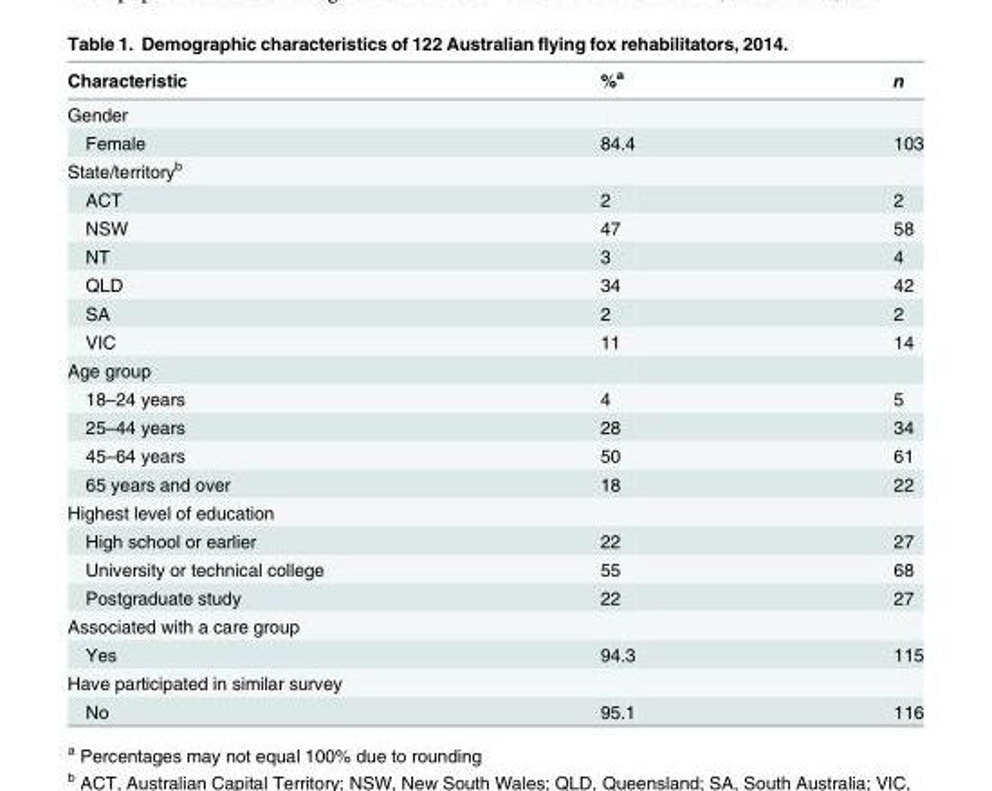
<table><thead><tr><td>Characteristic</td><td>%<sup>a</sup></td><td>n</td></tr></thead><tbody><tr><td colspan="3">Gender</td></tr><tr><td>Female</td><td>84.4</td><td>103</td></tr><tr><td colspan="3">State/territory<sup>b</sup></td></tr><tr><td>ACT</td><td>2</td><td>2</td></tr><tr><td>NSW</td><td>47</td><td>58</td></tr><tr><td>NT</td><td>3</td><td>4</td></tr><tr><td>QLD</td><td>34</td><td>42</td></tr><tr><td>SA</td><td>2</td><td>2</td></tr><tr><td>VIC</td><td>11</td><td>14</td></tr><tr><td colspan="3">Age group</td></tr><tr><td>18–24 years</td><td>4</td><td>5</td></tr><tr><td>25–44 years</td><td>28</td><td>34</td></tr><tr><td>45–64 years</td><td>50</td><td>61</td></tr><tr><td>65 years and over</td><td>18</td><td>22</td></tr><tr><td colspan="3">Highest level of education</td></tr><tr><td>High school or earlier</td><td>22</td><td>27</td></tr><tr><td>University or technical college</td><td>55</td><td>68</td></tr><tr><td>Postgraduate study</td><td>22</td><td>27</td></tr><tr><td colspan="3">Associated with a care group</td></tr><tr><td>Yes</td><td>94.3</td><td>115</td></tr><tr><td colspan="3">Have participated in similar survey</td></tr><tr><td>No</td><td>95.1</td><td>116</td></tr></tbody></table>